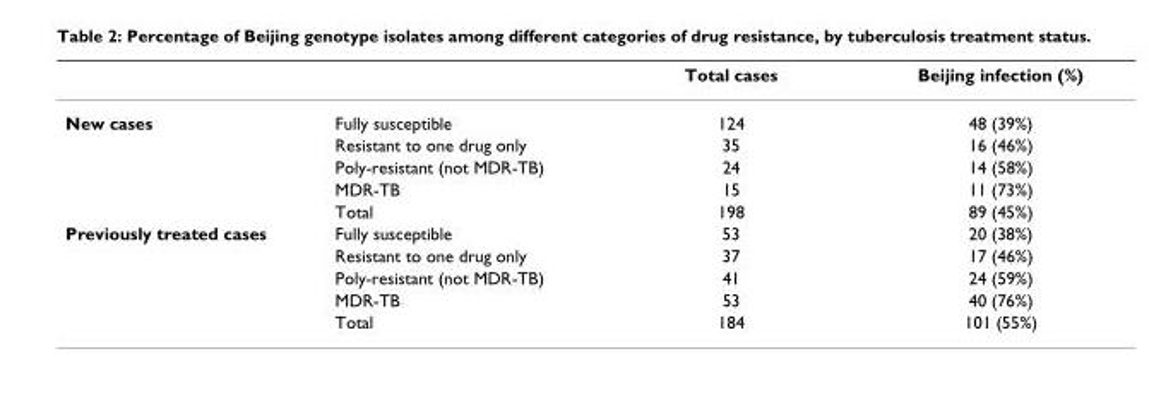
<table><thead><tr><td></td><td></td><td>Total cases</td><td>Beijing infection (%)</td></tr></thead><tbody><tr><td rowspan="5">New cases</td><td>Fully susceptible</td><td>124</td><td>48 (39%)</td></tr><tr><td>Resistant to one drug only</td><td>35</td><td>16 (46%)</td></tr><tr><td>Poly-resistant (not MDR-TB)</td><td>24</td><td>14 (58%)</td></tr><tr><td>MDR-TB</td><td>15</td><td>11 (73%)</td></tr><tr><td>Total</td><td>198</td><td>89 (45%)</td></tr><tr><td rowspan="5">Previously treated cases</td><td>Fully susceptible</td><td>53</td><td>20 (38%)</td></tr><tr><td>Resistant to one drug only</td><td>37</td><td>17 (46%)</td></tr><tr><td>Poly-resistant (not MDR-TB)</td><td>41</td><td>24 (59%)</td></tr><tr><td>MDR-TB</td><td>53</td><td>40 (76%)</td></tr><tr><td>Total</td><td>184</td><td>101 (55%)</td></tr></tbody></table>